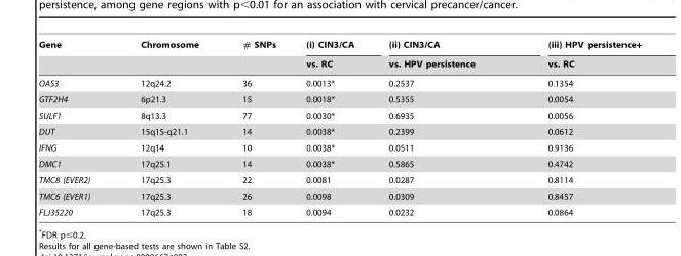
<table><thead><tr><td rowspan="2">Gene</td><td rowspan="2">Chromosome</td><td rowspan="2"># SNPs</td><td rowspan="2">(i) CIN3/CA vs. RC</td><td rowspan="2">(ii) CIN3/CA vs. HPV persistence</td><td rowspan="2">(iii) HPV persistence+ vs. RC</td></tr><tr></tr></thead><tbody><tr><td>OAS3</td><td>12q24.2</td><td>36</td><td>0.0013*</td><td>0.2537</td><td>0.1354</td></tr><tr><td>GTF2H4</td><td>6p21.3</td><td>15</td><td>0.0018*</td><td>0.5355</td><td>0.0054</td></tr><tr><td>SULF1</td><td>8q13.3</td><td>77</td><td>0.0030*</td><td>0.6935</td><td>0.0056</td></tr><tr><td>DUT</td><td>15q15-q21.1</td><td>14</td><td>0.0038*</td><td>0.2399</td><td>0.0612</td></tr><tr><td>IFNG</td><td>12q14</td><td>10</td><td>0.0038*</td><td>0.0511</td><td>0.9136</td></tr><tr><td>DMC1</td><td>17q25.1</td><td>14</td><td>0.0038*</td><td>0.5865</td><td>0.4742</td></tr><tr><td>TMC8 (EVER2)</td><td>17q25.3</td><td>22</td><td>0.0081</td><td>0.0287</td><td>0.8114</td></tr><tr><td>TMC6 (EVER1)</td><td>17q25.3</td><td>26</td><td>0.0098</td><td>0.0309</td><td>0.8457</td></tr><tr><td>FLJ35220</td><td>17q25.3</td><td>18</td><td>0.0094</td><td>0.0232</td><td>0.0864</td></tr></tbody></table>